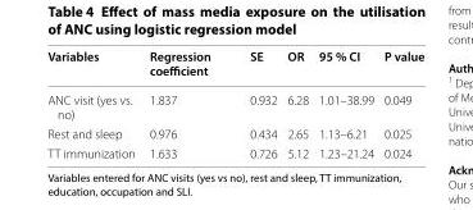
<table><thead><tr><td>Variables</td><td>Regression coefficient</td><td>SE</td><td>OR</td><td>95 % CI</td><td>P value</td></tr></thead><tbody><tr><td>ANC visit (yes vs. no)</td><td>1.837</td><td>0.932</td><td>6.28</td><td>1.01–38.99</td><td>0.049</td></tr><tr><td>Rest and sleep</td><td>0.976</td><td>0.434</td><td>2.65</td><td>1.13–6.21</td><td>0.025</td></tr><tr><td>TT immunization</td><td>1.633</td><td>0.726</td><td>5.12</td><td>1.23–21.24</td><td>0.024</td></tr></tbody></table>